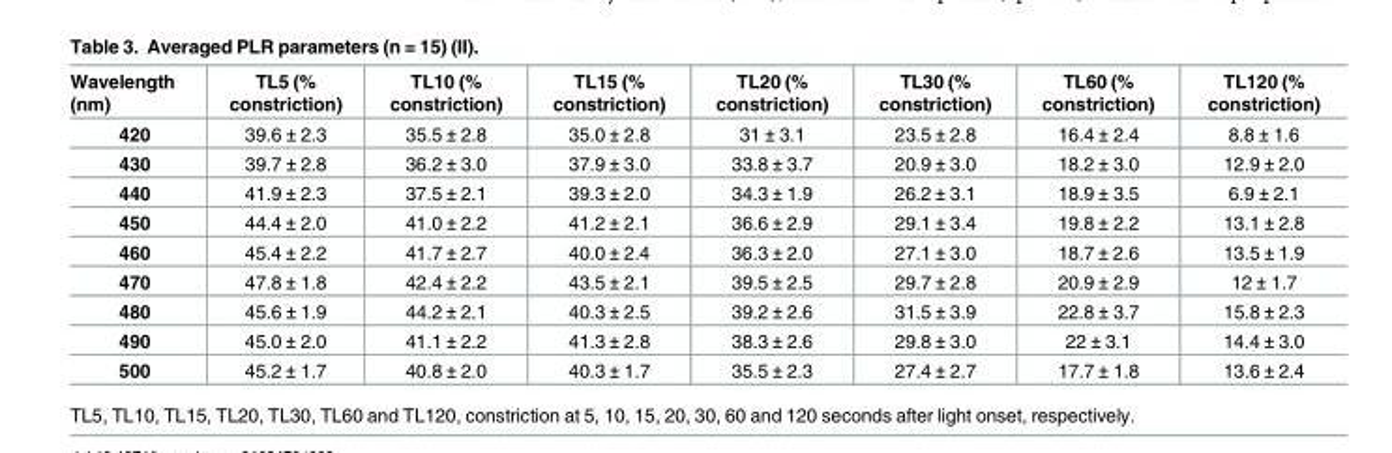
<table><thead><tr><td>Wavelength (nm)</td><td>TL5 (% constriction)</td><td>TL10 (% constriction)</td><td>TL15 (% constriction)</td><td>TL20 (% constriction)</td><td>TL30 (% constriction)</td><td>TL60 (% constriction)</td><td>TL120 (% constriction)</td></tr></thead><tbody><tr><td>420</td><td>39.6 ± 2.3</td><td>35.5 ± 2.8</td><td>35.0 ± 2.8</td><td>31 ± 3.1</td><td>23.5 ± 2.8</td><td>16.4 ± 2.4</td><td>8.8 ± 1.6</td></tr><tr><td>430</td><td>39.7 ± 2.8</td><td>36.2 ± 3.0</td><td>37.9 ± 3.0</td><td>33.8 ± 3.7</td><td>20.9 ± 3.0</td><td>18.2 ± 3.0</td><td>12.9 ± 2.0</td></tr><tr><td>440</td><td>41.9 ± 2.3</td><td>37.5 ± 2.1</td><td>39.3 ± 2.0</td><td>34.3 ± 1.9</td><td>26.2 ± 3.1</td><td>18.9 ± 3.5</td><td>6.9 ± 2.1</td></tr><tr><td>450</td><td>44.4 ± 2.0</td><td>41.0 ± 2.2</td><td>41.2 ± 2.1</td><td>36.6 ± 2.9</td><td>29.1 ± 3.4</td><td>19.8 ± 2.2</td><td>13.1 ± 2.8</td></tr><tr><td>460</td><td>45.4 ± 2.2</td><td>41.7 ± 2.7</td><td>40.0 ± 2.4</td><td>36.3 ± 2.0</td><td>27.1 ± 3.0</td><td>18.7 ± 2.6</td><td>13.5 ± 1.9</td></tr><tr><td>470</td><td>47.8 ± 1.8</td><td>42.4 ± 2.2</td><td>43.5 ± 2.1</td><td>39.5 ± 2.5</td><td>29.7 ± 2.8</td><td>20.9 ± 2.9</td><td>12 ± 1.7</td></tr><tr><td>480</td><td>45.6 ± 1.9</td><td>44.2 ± 2.1</td><td>40.3 ± 2.5</td><td>39.2 ± 2.6</td><td>31.5 ± 3.9</td><td>22.8 ± 3.7</td><td>15.8 ± 2.3</td></tr><tr><td>490</td><td>45.0 ± 2.0</td><td>41.1 ± 2.2</td><td>41.3 ± 2.8</td><td>38.3 ± 2.6</td><td>29.8 ± 3.0</td><td>22 ± 3.1</td><td>14.4 ± 3.0</td></tr><tr><td>500</td><td>45.2 ± 1.7</td><td>40.8 ± 2.0</td><td>40.3 ± 1.7</td><td>35.5 ± 2.3</td><td>27.4 ± 2.7</td><td>17.7 ± 1.8</td><td>13.6 ± 2.4</td></tr></tbody></table>